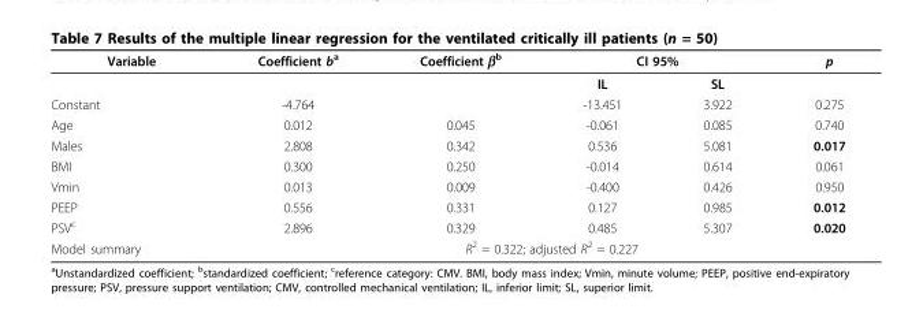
<table><thead><tr><td rowspan="2">Variable</td><td rowspan="2">Coefficient b<sup>a</sup></td><td rowspan="2">Coefficient β<sup>b</sup></td><td colspan="2">CI 95%</td><td rowspan="2">p</td></tr><tr><td>IL</td><td>SL</td></tr></thead><tbody><tr><td>Constant</td><td>-4.764</td><td></td><td>-13.451</td><td>3.922</td><td>0.275</td></tr><tr><td>Age</td><td>0.012</td><td>0.045</td><td>-0.061</td><td>0.085</td><td>0.740</td></tr><tr><td>Males</td><td>2.808</td><td>0.342</td><td>0.536</td><td>5.081</td><td>0.017</td></tr><tr><td>BMI</td><td>0.300</td><td>0.250</td><td>-0.014</td><td>0.614</td><td>0.061</td></tr><tr><td>Vmin</td><td>0.013</td><td>0.009</td><td>-0.400</td><td>0.426</td><td>0.950</td></tr><tr><td>PEEP</td><td>0.556</td><td>0.331</td><td>0.127</td><td>0.985</td><td>0.012</td></tr><tr><td>PSV<sup>c</sup></td><td>2.896</td><td>0.329</td><td>0.485</td><td>5.307</td><td>0.020</td></tr><tr><td>Model summary</td><td colspan="5">R<sup>2</sup> = 0.322; adjusted R<sup>2</sup> = 0.227</td></tr></tbody></table>